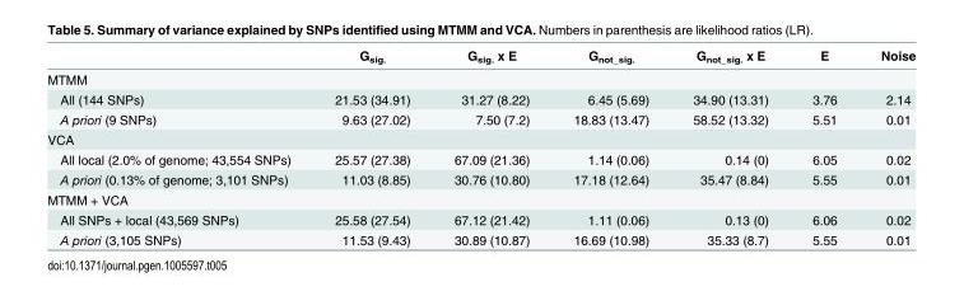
<table><thead><tr><td></td><td>G<sub>sig.</sub></td><td>G<sub>sig.</sub> x E</td><td>G<sub>not_sig.</sub></td><td>G<sub>not_sig.</sub> x E</td><td>E</td><td>Noise</td></tr></thead><tbody><tr><td colspan="7">MTMM</td></tr><tr><td>All (144 SNPs)</td><td>21.53 (34.91)</td><td>31.27 (8.22)</td><td>6.45 (5.69)</td><td>34.90 (13.31)</td><td>3.76</td><td>2.14</td></tr><tr><td>A priori (9 SNPs)</td><td>9.63 (27.02)</td><td>7.50 (7.2)</td><td>18.83 (13.47)</td><td>58.52 (13.32)</td><td>5.51</td><td>0.01</td></tr><tr><td colspan="7">VCA</td></tr><tr><td>All local (2.0% of genome; 43,554 SNPs)</td><td>25.57 (27.38)</td><td>67.09 (21.36)</td><td>1.14 (0.06)</td><td>0.14 (0)</td><td>6.05</td><td>0.02</td></tr><tr><td>A priori (0.13% of genome; 3,101 SNPs)</td><td>11.03 (8.85)</td><td>30.76 (10.80)</td><td>17.18 (12.64)</td><td>35.47 (8.84)</td><td>5.55</td><td>0.01</td></tr><tr><td colspan="7">MTMM + VCA</td></tr><tr><td>All SNPs + local (43,569 SNPs)</td><td>25.58 (27.54)</td><td>67.12 (21.42)</td><td>1.11 (0.06)</td><td>0.13 (0)</td><td>6.06</td><td>0.02</td></tr><tr><td>A priori (3,105 SNPs)</td><td>11.53 (9.43)</td><td>30.89 (10.87)</td><td>16.69 (10.98)</td><td>35.33 (8.7)</td><td>5.55</td><td>0.01</td></tr></tbody></table>